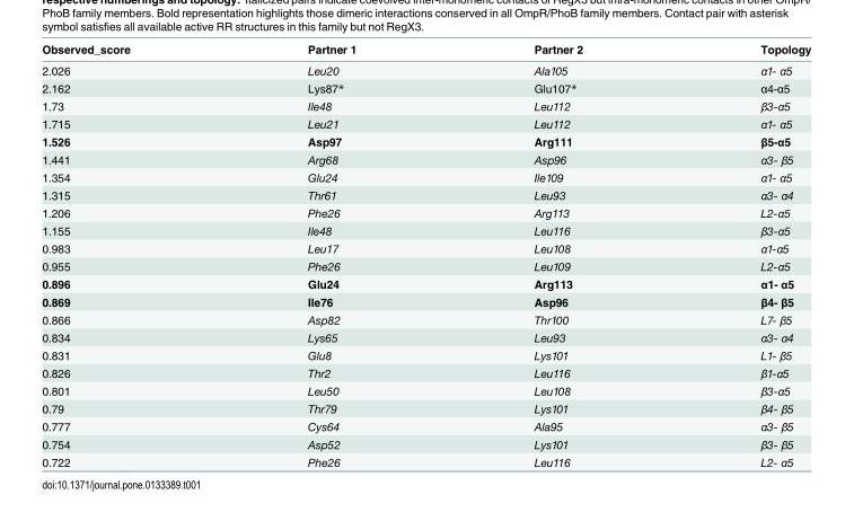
<table><thead><tr><td>Observed_score</td><td>Partner 1</td><td>Partner 2</td><td>Topology</td></tr></thead><tbody><tr><td>2.026</td><td>Leu20</td><td>Ala105</td><td>α1- α5</td></tr><tr><td>2.162</td><td>Lys87*</td><td>Glu107*</td><td>α4-α5</td></tr><tr><td>1.73</td><td>Ile48</td><td>Leu112</td><td>β3-α5</td></tr><tr><td>1.715</td><td>Leu21</td><td>Leu112</td><td>α1- α5</td></tr><tr><td>1.526</td><td>Asp97</td><td>Arg111</td><td>β5-α5</td></tr><tr><td>1.441</td><td>Arg68</td><td>Asp96</td><td>α3- β5</td></tr><tr><td>1.354</td><td>Glu24</td><td>Ile109</td><td>α1- α5</td></tr><tr><td>1.315</td><td>Thr61</td><td>Leu93</td><td>α3- α4</td></tr><tr><td>1.206</td><td>Phe26</td><td>Arg113</td><td>L2-α5</td></tr><tr><td>1.155</td><td>Ile48</td><td>Leu116</td><td>β3-α5</td></tr><tr><td>0.983</td><td>Leu17</td><td>Leu108</td><td>α1-α5</td></tr><tr><td>0.955</td><td>Phe26</td><td>Leu109</td><td>L2-α5</td></tr><tr><td>0.896</td><td>Glu24</td><td>Arg113</td><td>α1- α5</td></tr><tr><td>0.869</td><td>Ile76</td><td>Asp96</td><td>β4- β5</td></tr><tr><td>0.866</td><td>Asp82</td><td>Thr100</td><td>L7- β5</td></tr><tr><td>0.834</td><td>Lys65</td><td>Leu93</td><td>α3- α4</td></tr><tr><td>0.831</td><td>Glu8</td><td>Lys101</td><td>L1- β5</td></tr><tr><td>0.826</td><td>Thr2</td><td>Leu116</td><td>β1-α5</td></tr><tr><td>0.801</td><td>Leu50</td><td>Leu108</td><td>β3-α5</td></tr><tr><td>0.79</td><td>Thr79</td><td>Lys101</td><td>β4- β5</td></tr><tr><td>0.777</td><td>Cys64</td><td>Ala95</td><td>α3- β5</td></tr><tr><td>0.754</td><td>Asp52</td><td>Lys101</td><td>β3- β5</td></tr><tr><td>0.722</td><td>Phe26</td><td>Leu116</td><td>L2- α5</td></tr></tbody></table>